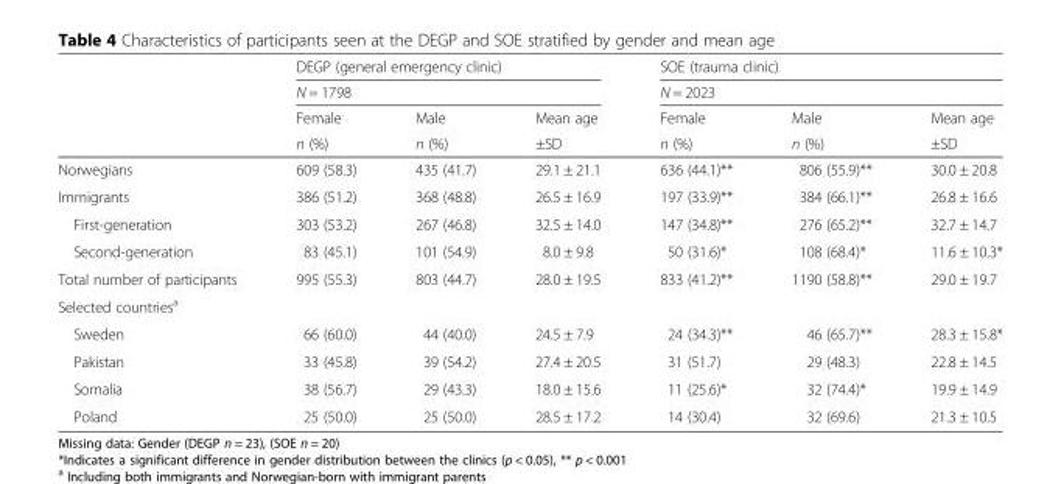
<table><thead><tr><td rowspan="4"></td><td rowspan="2" colspan="3">DEGP (general emergency clinic) N = 1798</td><td rowspan="2" colspan="3">SOE (trauma clinic) N = 2023</td></tr><tr></tr><tr><td rowspan="2">Female n (%)</td><td rowspan="2">Male n (%)</td><td rowspan="2">Mean age ±SD</td><td rowspan="2">Female n (%)</td><td rowspan="2">Male n (%)</td><td rowspan="2">Mean age ±SD</td></tr><tr></tr></thead><tbody><tr><td>Norwegians</td><td>609 (58.3)</td><td>435 (41.7)</td><td>29.1 ± 21.1</td><td>636 (44.1)**</td><td>806 (55.9)**</td><td>30.0 ± 20.8</td></tr><tr><td>Immigrants</td><td>386 (51.2)</td><td>368 (48.8)</td><td>26.5 ± 16.9</td><td>197 (33.9)**</td><td>384 (66.1)**</td><td>26.8 ± 16.6</td></tr><tr><td>First-generation</td><td>303 (53.2)</td><td>267 (46.8)</td><td>32.5 ± 14.0</td><td>147 (34.8)**</td><td>276 (65.2)**</td><td>32.7 ± 14.7</td></tr><tr><td>Second-generation</td><td>83 (45.1)</td><td>101 (54.9)</td><td>8.0 ± 9.8</td><td>50 (31.6)*</td><td>108 (68.4)*</td><td>11.6 ± 10.3*</td></tr><tr><td>Total number of participants</td><td>995 (55.3)</td><td>803 (44.7)</td><td>28.0 ± 19.5</td><td>833 (41.2)**</td><td>1190 (58.8)**</td><td>29.0 ± 19.7</td></tr><tr><td colspan="7">Selected countries<sup>a</sup></td></tr><tr><td>Sweden</td><td>66 (60.0)</td><td>44 (40.0)</td><td>24.5 ± 7.9</td><td>24 (34.3)**</td><td>46 (65.7)**</td><td>28.3 ± 15.8*</td></tr><tr><td>Pakistan</td><td>33 (45.8)</td><td>39 (54.2)</td><td>27.4 ± 20.5</td><td>31 (51.7)</td><td>29 (48.3)</td><td>22.8 ± 14.5</td></tr><tr><td>Somalia</td><td>38 (56.7)</td><td>29 (43.3)</td><td>18.0 ± 15.6</td><td>11 (25.6)*</td><td>32 (74.4)*</td><td>19.9 ± 14.9</td></tr><tr><td>Poland</td><td>25 (50.0)</td><td>25 (50.0)</td><td>28.5 ± 17.2</td><td>14 (30.4)</td><td>32 (69.6)</td><td>21.3 ± 10.5</td></tr></tbody></table>